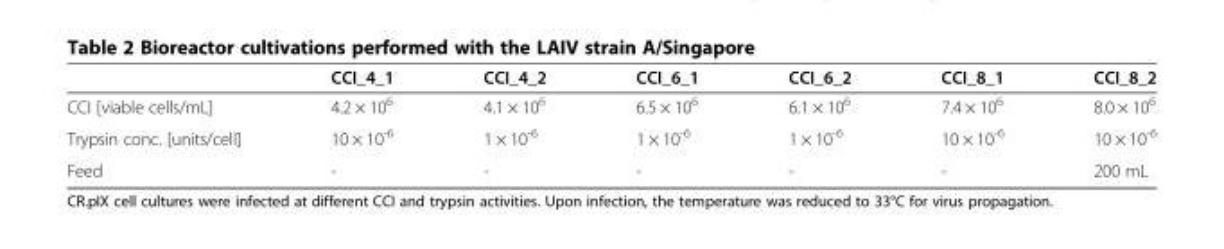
<table><thead><tr><td></td><td>CCI_4_1</td><td>CCI_4_2</td><td>CCI_6_1</td><td>CCI_6_2</td><td>CCI_8_1</td><td>CCI_8_2</td></tr></thead><tbody><tr><td>CCI [viable cells/mL]</td><td>4.2 × 10<sup>6</sup></td><td>4.1 × 10<sup>6</sup></td><td>6.5 × 10<sup>6</sup></td><td>6.1 × 10<sup>6</sup></td><td>7.4 × 10<sup>6</sup></td><td>8.0 × 10<sup>6</sup></td></tr><tr><td>Trypsin conc. [units/cell]</td><td>10 × 10<sup>-6</sup></td><td>1 × 10<sup>-6</sup></td><td>1 × 10<sup>-6</sup></td><td>1 × 10<sup>-6</sup></td><td>10 × 10<sup>-6</sup></td><td>10 × 10<sup>-6</sup></td></tr><tr><td>Feed</td><td>-</td><td>-</td><td>-</td><td>-</td><td>-</td><td>200 mL</td></tr></tbody></table>